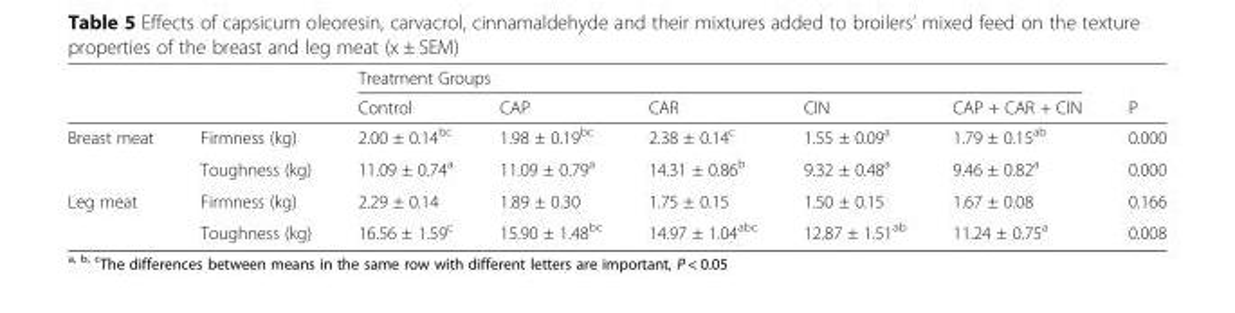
<table><thead><tr><td rowspan="2"></td><td rowspan="2"></td><td colspan="5">Treatment Groups</td><td rowspan="2">P</td></tr><tr><td>Control</td><td>CAP</td><td>CAR</td><td>CIN</td><td>CAP + CAR + CIN</td></tr></thead><tbody><tr><td rowspan="2">Breast meat</td><td>Firmness (kg)</td><td>2.00 ± 0.14<sup>bc</sup></td><td>1.98 ± 0.19<sup>bc</sup></td><td>2.38 ± 0.14<sup>c</sup></td><td>1.55 ± 0.09<sup>a</sup></td><td>1.79 ± 0.15<sup>ab</sup></td><td>0.000</td></tr><tr><td>Toughness (kg)</td><td>11.09 ± 0.74<sup>a</sup></td><td>11.09 ± 0.79<sup>a</sup></td><td>14.31 ± 0.86<sup>b</sup></td><td>9.32 ± 0.48<sup>a</sup></td><td>9.46 ± 0.82<sup>a</sup></td><td>0.000</td></tr><tr><td rowspan="2">Leg meat</td><td>Firmness (kg)</td><td>2.29 ± 0.14</td><td>1.89 ± 0.30</td><td>1.75 ± 0.15</td><td>1.50 ± 0.15</td><td>1.67 ± 0.08</td><td>0.166</td></tr><tr><td>Toughness (kg)</td><td>16.56 ± 1.59<sup>c</sup></td><td>15.90 ± 1.48<sup>bc</sup></td><td>14.97 ± 1.04<sup>abc</sup></td><td>12.87 ± 1.51<sup>ab</sup></td><td>11.24 ± 0.75<sup>a</sup></td><td>0.008</td></tr></tbody></table>